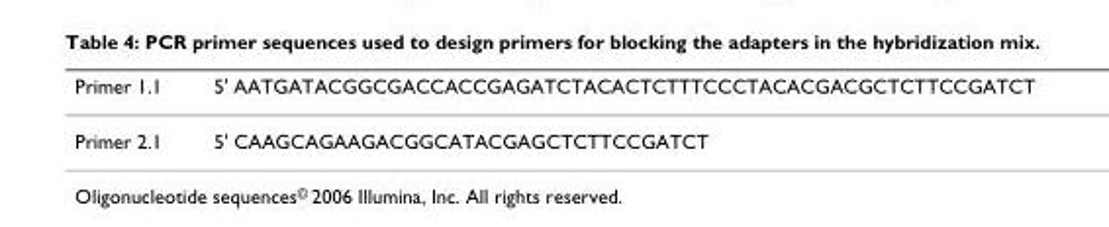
<table><thead><tr><td>Primer 1.1</td><td>5&#x27; AATGATACGGCGACCACCGAGATCTACACTCTTTCCCTACACGACGCTCTTCCGATCT</td></tr></thead><tbody><tr><td>Primer 2.1</td><td>5&#x27; CAAGCAGAAGACGGCATACGAGCTCTTCCGATCT</td></tr></tbody></table>